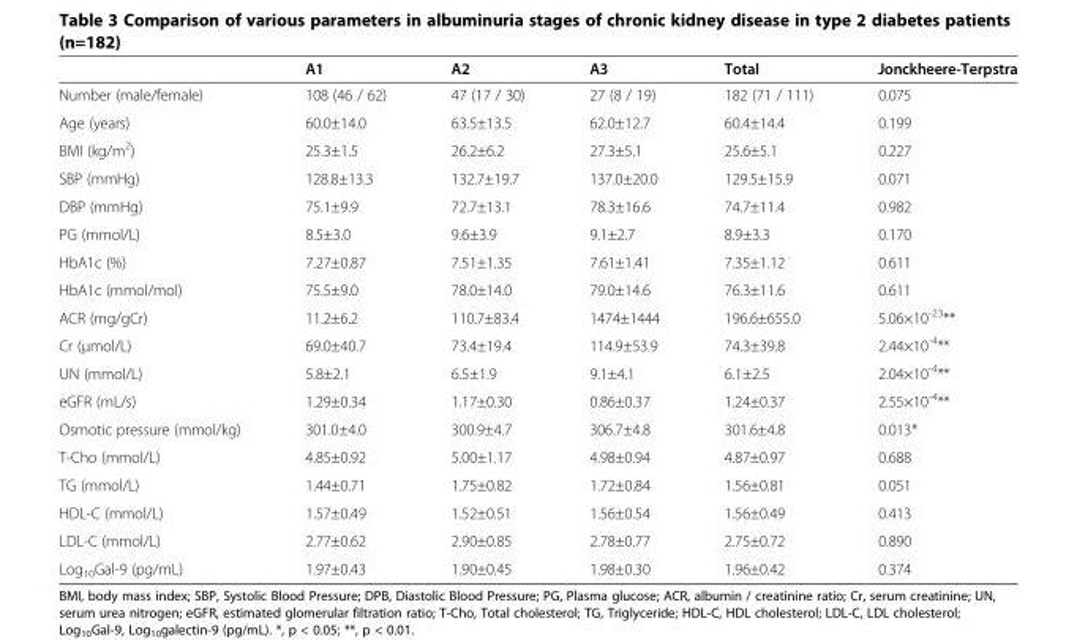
<table><thead><tr><td></td><td>A1</td><td>A2</td><td>A3</td><td>Total</td><td>Jonckheere-Terpstra</td></tr></thead><tbody><tr><td>Number (male/female)</td><td>108 (46 / 62)</td><td>47 (17 / 30)</td><td>27 (8 / 19)</td><td>182 (71 / 111)</td><td>0.075</td></tr><tr><td>Age (years)</td><td>60.0±14.0</td><td>63.5±13.5</td><td>62.0±12.7</td><td>60.4±14.4</td><td>0.199</td></tr><tr><td>BMI (kg/m<sup>2</sup>)</td><td>25.3±1.5</td><td>26.2±6.2</td><td>27.3±5.1</td><td>25.6±5.1</td><td>0.227</td></tr><tr><td>SBP (mmHg)</td><td>128.8±13.3</td><td>132.7±19.7</td><td>137.0±20.0</td><td>129.5±15.9</td><td>0.071</td></tr><tr><td>DBP (mmHg)</td><td>75.1±9.9</td><td>72.7±13.1</td><td>78.3±16.6</td><td>74.7±11.4</td><td>0.982</td></tr><tr><td>PG (mmol/L)</td><td>8.5±3.0</td><td>9.6±3.9</td><td>9.1±2.7</td><td>8.9±3.3</td><td>0.170</td></tr><tr><td>HbA1c (%)</td><td>7.27±0.87</td><td>7.51±1.35</td><td>7.61±1.41</td><td>7.35±1.12</td><td>0.611</td></tr><tr><td>HbA1c (mmol/mol)</td><td>75.5±9.0</td><td>78.0±14.0</td><td>79.0±14.6</td><td>76.3±11.6</td><td>0.611</td></tr><tr><td>ACR (mg/gCr)</td><td>11.2±6.2</td><td>110.7±83.4</td><td>1474±1444</td><td>196.6±655.0</td><td>5.06×10<sup>-23</sup>**</td></tr><tr><td>Cr (μmol/L)</td><td>69.0±40.7</td><td>73.4±19.4</td><td>114.9±53.9</td><td>74.3±39.8</td><td>2.44×10<sup>-4</sup>**</td></tr><tr><td>UN (mmol/L)</td><td>5.8±2.1</td><td>6.5±1.9</td><td>9.1±4.1</td><td>6.1±2.5</td><td>2.04×10<sup>-4</sup>**</td></tr><tr><td>eGFR (mL/s)</td><td>1.29±0.34</td><td>1.17±0.30</td><td>0.86±0.37</td><td>1.24±0.37</td><td>2.55×10<sup>-4</sup>**</td></tr><tr><td>Osmotic pressure (mmol/kg)</td><td>301.0±4.0</td><td>300.9±4.7</td><td>306.7±4.8</td><td>301.6±4.8</td><td>0.013*</td></tr><tr><td>T-Cho (mmol/L)</td><td>4.85±0.92</td><td>5.00±1.17</td><td>4.98±0.94</td><td>4.87±0.97</td><td>0.688</td></tr><tr><td>TG (mmol/L)</td><td>1.44±0.71</td><td>1.75±0.82</td><td>1.72±0.84</td><td>1.56±0.81</td><td>0.051</td></tr><tr><td>HDL-C (mmol/L)</td><td>1.57±0.49</td><td>1.52±0.51</td><td>1.56±0.54</td><td>1.56±0.49</td><td>0.413</td></tr><tr><td>LDL-C (mmol/L)</td><td>2.77±0.62</td><td>2.90±0.85</td><td>2.78±0.77</td><td>2.75±0.72</td><td>0.890</td></tr><tr><td>Log<sub>10</sub>Gal-9 (pg/mL)</td><td>1.97±0.43</td><td>1.90±0.45</td><td>1.98±0.30</td><td>1.96±0.42</td><td>0.374</td></tr></tbody></table>